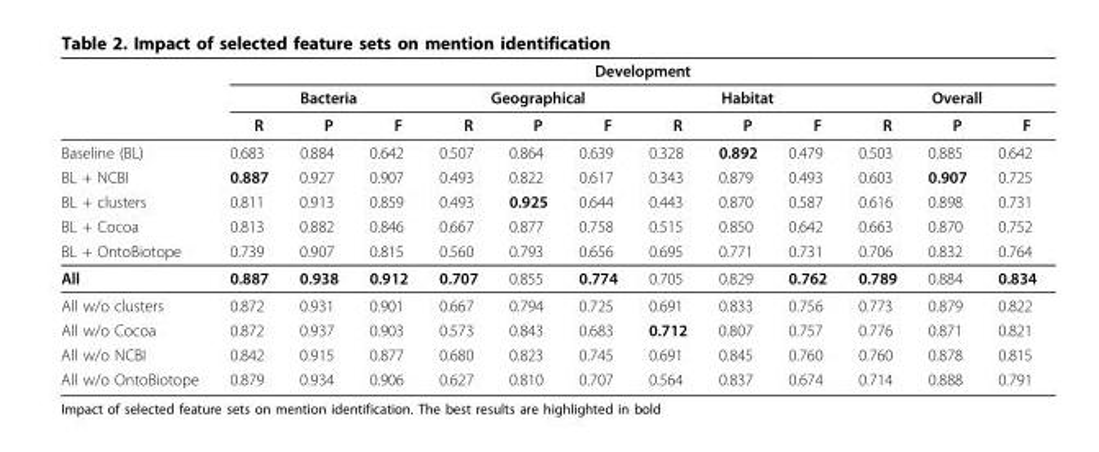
<table><thead><tr><td rowspan="3"></td><td colspan="12">Development</td></tr><tr><td colspan="3">Bacteria</td><td colspan="3">Geographical</td><td colspan="3">Habitat</td><td colspan="3">Overall</td></tr><tr><td>R</td><td>P</td><td>F</td><td>R</td><td>P</td><td>F</td><td>R</td><td>P</td><td>F</td><td>R</td><td>P</td><td>F</td></tr></thead><tbody><tr><td>Baseline (BL)</td><td>0.683</td><td>0.884</td><td>0.642</td><td>0.507</td><td>0.864</td><td>0.639</td><td>0.328</td><td>0.892</td><td>0.479</td><td>0.503</td><td>0.885</td><td>0.642</td></tr><tr><td>BL + NCBI</td><td>0.887</td><td>0.927</td><td>0.907</td><td>0.493</td><td>0.822</td><td>0.617</td><td>0.343</td><td>0.879</td><td>0.493</td><td>0.603</td><td>0.907</td><td>0.725</td></tr><tr><td>BL + clusters</td><td>0.811</td><td>0.913</td><td>0.859</td><td>0.493</td><td>0.925</td><td>0.644</td><td>0.443</td><td>0.870</td><td>0.587</td><td>0.616</td><td>0.898</td><td>0.731</td></tr><tr><td>BL + Cocoa</td><td>0.813</td><td>0.882</td><td>0.846</td><td>0.667</td><td>0.877</td><td>0.758</td><td>0.515</td><td>0.850</td><td>0.642</td><td>0.663</td><td>0.870</td><td>0.752</td></tr><tr><td>BL + OntoBiotope</td><td>0.739</td><td>0.907</td><td>0.815</td><td>0.560</td><td>0.793</td><td>0.656</td><td>0.695</td><td>0.771</td><td>0.731</td><td>0.706</td><td>0.832</td><td>0.764</td></tr><tr><td>All</td><td>0.887</td><td>0.938</td><td>0.912</td><td>0.707</td><td>0.855</td><td>0.774</td><td>0.705</td><td>0.829</td><td>0.762</td><td>0.789</td><td>0.884</td><td>0.834</td></tr><tr><td>All w/o clusters</td><td>0.872</td><td>0.931</td><td>0.901</td><td>0.667</td><td>0.794</td><td>0.725</td><td>0.691</td><td>0.833</td><td>0.756</td><td>0.773</td><td>0.879</td><td>0.822</td></tr><tr><td>All w/o Cocoa</td><td>0.872</td><td>0.937</td><td>0.903</td><td>0.573</td><td>0.843</td><td>0.683</td><td>0.712</td><td>0.807</td><td>0.757</td><td>0.776</td><td>0.871</td><td>0.821</td></tr><tr><td>All w/o NCBI</td><td>0.842</td><td>0.915</td><td>0.877</td><td>0.680</td><td>0.823</td><td>0.745</td><td>0.691</td><td>0.845</td><td>0.760</td><td>0.760</td><td>0.878</td><td>0.815</td></tr><tr><td>All w/o OntoBiotope</td><td>0.879</td><td>0.934</td><td>0.906</td><td>0.627</td><td>0.810</td><td>0.707</td><td>0.564</td><td>0.837</td><td>0.674</td><td>0.714</td><td>0.888</td><td>0.791</td></tr></tbody></table>